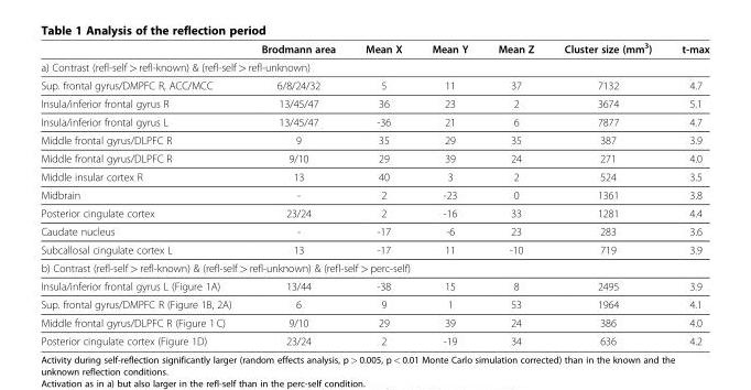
<table><thead><tr><td></td><td>Brodmann area</td><td>Mean X</td><td>Mean Y</td><td>Mean Z</td><td>Cluster size (mm<sup>3</sup>)</td><td>t-max</td></tr></thead><tbody><tr><td colspan="7">a) Contrast (refl-self &gt; refl-known) &amp; (refl-self &gt; refl-unknown)</td></tr><tr><td>Sup. frontal gyrus/DMPFC R, ACC/MCC</td><td>6/8/24/32</td><td>5</td><td>11</td><td>37</td><td>7132</td><td>4.7</td></tr><tr><td>Insula/inferior frontal gyrus R</td><td>13/45/47</td><td>36</td><td>23</td><td>2</td><td>3674</td><td>5.1</td></tr><tr><td>Insula/inferior frontal gyrus L</td><td>13/45/47</td><td>-36</td><td>21</td><td>6</td><td>7877</td><td>4.7</td></tr><tr><td>Middle frontal gyrus/DLPFC R</td><td>9</td><td>35</td><td>29</td><td>35</td><td>387</td><td>3.9</td></tr><tr><td>Middle frontal gyrus/DLPFC R</td><td>9/10</td><td>29</td><td>39</td><td>24</td><td>271</td><td>4.0</td></tr><tr><td>Middle insular cortex R</td><td>13</td><td>40</td><td>3</td><td>2</td><td>524</td><td>3.5</td></tr><tr><td>Midbrain</td><td>-</td><td>2</td><td>-23</td><td>0</td><td>1361</td><td>3.8</td></tr><tr><td>Posterior cingulate cortex</td><td>23/24</td><td>2</td><td>-16</td><td>33</td><td>1281</td><td>4.4</td></tr><tr><td>Caudate nucleus</td><td>-</td><td>-17</td><td>-6</td><td>23</td><td>283</td><td>3.6</td></tr><tr><td>Subcallosal cingulate cortex L</td><td>13</td><td>-17</td><td>11</td><td>-10</td><td>719</td><td>3.9</td></tr><tr><td colspan="7">b) Contrast (refl-self &gt; refl-known) &amp; (refl-self &gt; refl-unknown) &amp; (refl-self &gt; perc-self)</td></tr><tr><td>Insula/inferior frontal gyrus L (Figure 1A)</td><td>13/44</td><td>-38</td><td>15</td><td>8</td><td>2495</td><td>3.9</td></tr><tr><td>Sup. frontal gyrus/DMPFC R (Figure 1B, 2A)</td><td>6</td><td>9</td><td>1</td><td>53</td><td>1964</td><td>4.1</td></tr><tr><td>Middle frontal gyrus/DLPFC R (Figure 1 C)</td><td>9/10</td><td>29</td><td>39</td><td>24</td><td>386</td><td>4.0</td></tr><tr><td>Posterior cingulate cortex (Figure 1D)</td><td>23/24</td><td>2</td><td>-19</td><td>34</td><td>636</td><td>4.2</td></tr></tbody></table>